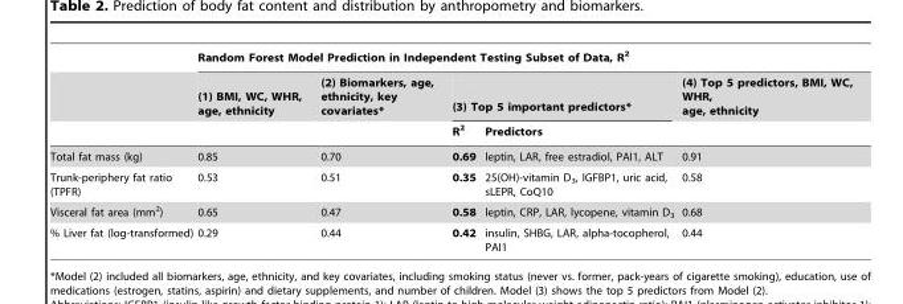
<table><thead><tr><td rowspan="3"></td><td colspan="5">Random Forest Model Prediction in Independent Testing Subset of Data, R<sup>2</sup></td></tr><tr><td rowspan="2">(1) BMI, WC, WHR, age, ethnicity</td><td rowspan="2">(2) Biomarkers, age, ethnicity, key covariates*</td><td colspan="2">(3) Top 5 important predictors*</td><td rowspan="2">(4) Top 5 predictors, BMI, WC, WHR, age, ethnicity</td></tr><tr><td>R<sup>2</sup></td><td>Predictors</td></tr></thead><tbody><tr><td>Total fat mass (kg)</td><td>0.85</td><td>0.70</td><td>0.69</td><td>leptin, LAR, free estradiol, PAI1, ALT</td><td>0.91</td></tr><tr><td>Trunk-periphery fat ratio (TPFR)</td><td>0.53</td><td>0.51</td><td>0.35</td><td>25(OH)-vitamin D<sub>3</sub>, IGFBP1, uric acid, sLEPR, CoQ10</td><td>0.58</td></tr><tr><td>Visceral fat area (mm<sup>2</sup>)</td><td>0.65</td><td>0.47</td><td>0.58</td><td>leptin, CRP, LAR, lycopene, vitamin D<sub>3</sub></td><td>0.68</td></tr><tr><td>% Liver fat (log-transformed)</td><td>0.29</td><td>0.44</td><td>0.42</td><td>insulin, SHBG, LAR, alpha-tocopherol, PAI1</td><td>0.44</td></tr></tbody></table>